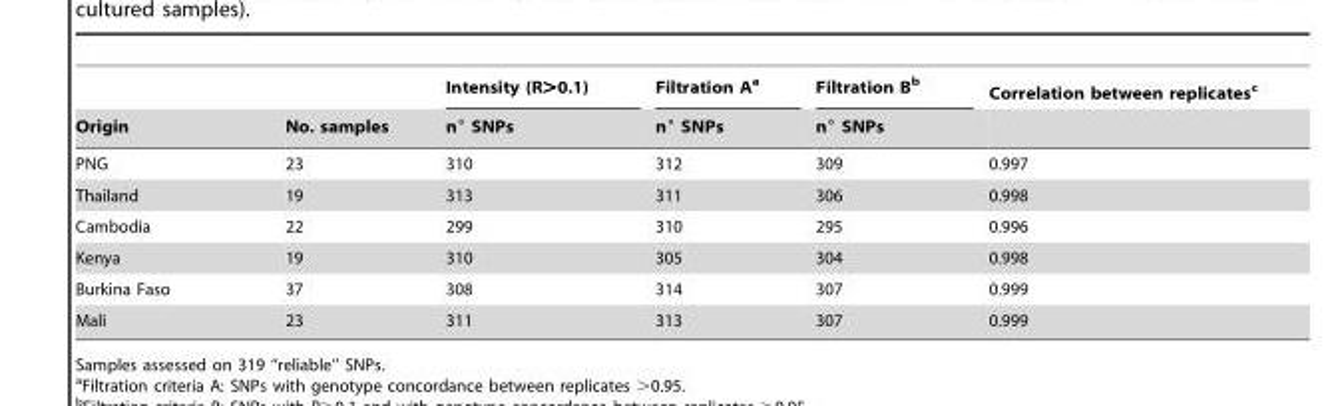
<table><thead><tr><td rowspan="2">Origin</td><td rowspan="2">No. samples</td><td rowspan="2">Intensity (R&gt;0.1) n° SNPs</td><td rowspan="2">Filtration A<sup>a</sup> n° SNPs</td><td rowspan="2">Filtration B<sup>b</sup> n° SNPs</td><td rowspan="2">Correlation between replicates<sup>c</sup></td></tr><tr></tr></thead><tbody><tr><td>PNG</td><td>23</td><td>310</td><td>312</td><td>309</td><td>0.997</td></tr><tr><td>Thailand</td><td>19</td><td>313</td><td>311</td><td>306</td><td>0.998</td></tr><tr><td>Cambodia</td><td>22</td><td>299</td><td>310</td><td>295</td><td>0.996</td></tr><tr><td>Kenya</td><td>19</td><td>310</td><td>305</td><td>304</td><td>0.998</td></tr><tr><td>Burkina Faso</td><td>37</td><td>308</td><td>314</td><td>307</td><td>0.999</td></tr><tr><td>Mali</td><td>23</td><td>311</td><td>313</td><td>307</td><td>0.999</td></tr></tbody></table>